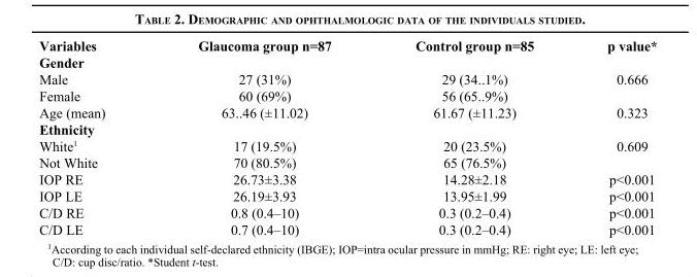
<table><thead><tr><td>Variables</td><td>Glaucoma group n=87</td><td>Control group n=85</td><td>p value*</td></tr></thead><tbody><tr><td colspan="4">Gender</td></tr><tr><td>Male</td><td>27 (31%)</td><td>29 (34..1%)</td><td>0.666</td></tr><tr><td>Female</td><td>60 (69%)</td><td>56 (65..9%)</td><td></td></tr><tr><td>Age (mean)</td><td>63..46 (±11.02)</td><td>61.67 (±11.23)</td><td>0.323</td></tr><tr><td colspan="4">Ethnicity</td></tr><tr><td>White<sup>1</sup></td><td>17 (19.5%)</td><td>20 (23.5%)</td><td>0.609</td></tr><tr><td>Not White</td><td>70 (80.5%)</td><td>65 (76.5%)</td><td></td></tr><tr><td>IOP RE</td><td>26.73±3.38</td><td>14.28±2.18</td><td>p&lt;0.001</td></tr><tr><td>IOP LE</td><td>26.19±3.93</td><td>13.95±1.99</td><td>p&lt;0.001</td></tr><tr><td>C/D RE</td><td>0.8 (0.4–10)</td><td>0.3 (0.2–0.4)</td><td>p&lt;0.001</td></tr><tr><td>C/D LE</td><td>0.7 (0.4–10)</td><td>0.3 (0.2–0.4)</td><td>p&lt;0.001</td></tr></tbody></table>